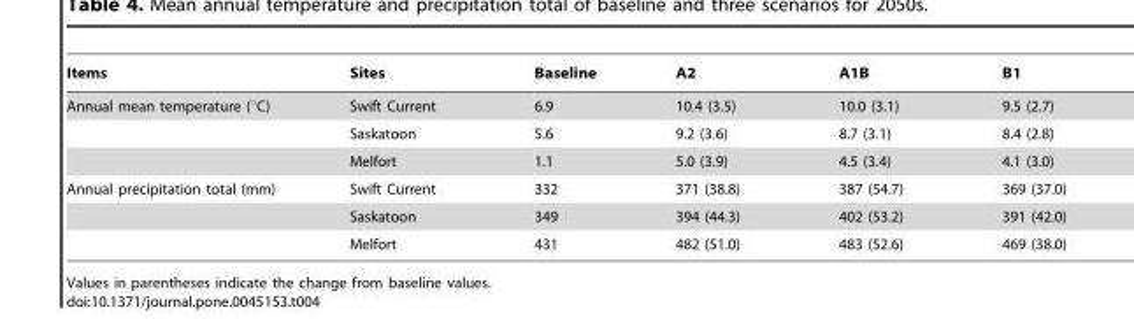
<table><thead><tr><td>Items</td><td>Sites</td><td>Baseline</td><td>A2</td><td>A1B</td><td>B1</td></tr></thead><tbody><tr><td rowspan="3">Annual mean temperature (°C)</td><td>Swift Current</td><td>6.9</td><td>10.4 (3.5)</td><td>10.0 (3.1)</td><td>9.5 (2.7)</td></tr><tr><td>Saskatoon</td><td>5.6</td><td>9.2 (3.6)</td><td>8.7 (3.1)</td><td>8.4 (2.8)</td></tr><tr><td>Melfort</td><td>1.1</td><td>5.0 (3.9)</td><td>4.5 (3.4)</td><td>4.1 (3.0)</td></tr><tr><td rowspan="3">Annual precipitation total (mm)</td><td>Swift Current</td><td>332</td><td>371 (38.8)</td><td>387 (54.7)</td><td>369 (37.0)</td></tr><tr><td>Saskatoon</td><td>349</td><td>394 (44.3)</td><td>402 (53.2)</td><td>391 (42.0)</td></tr><tr><td>Melfort</td><td>431</td><td>482 (51.0)</td><td>483 (52.6)</td><td>469 (38.0)</td></tr></tbody></table>